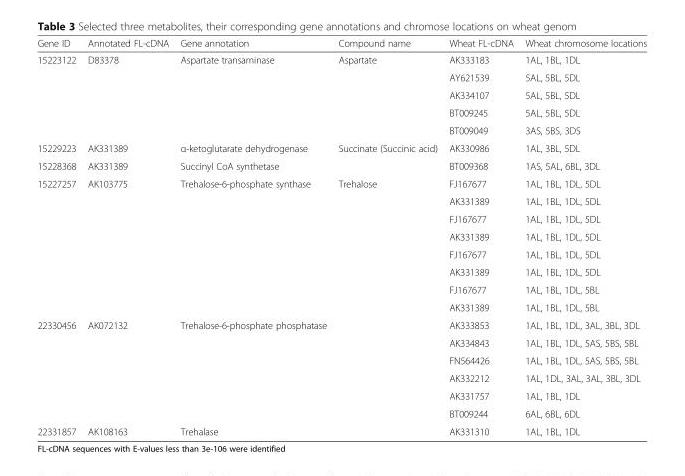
<table><thead><tr><td>Gene ID</td><td>Annotated FL-cDNA</td><td>Gene annotation</td><td>Compound name</td><td>Wheat FL-cDNA</td><td>Wheat chromosome locations</td></tr></thead><tbody><tr><td rowspan="5">15223122</td><td rowspan="5">D83378</td><td rowspan="5">Aspartate transaminase</td><td rowspan="5">Aspartate</td><td>AK333183</td><td>1AL, 1BL, 1DL</td></tr><tr><td>AY621539</td><td>5AL, 5BL, 5DL</td></tr><tr><td>AK334107</td><td>5AL, 5BL, 5DL</td></tr><tr><td>BT009245</td><td>5AL, 5BL, 5DL</td></tr><tr><td>BT009049</td><td>3AS, 5BS, 3DS</td></tr><tr><td>15229223</td><td>AK331389</td><td>α-ketoglutarate dehydrogenase</td><td rowspan="2">Succinate (Succinic acid)</td><td>AK330986</td><td>1AL, 3BL, 5DL</td></tr><tr><td>15228368</td><td>AK331389</td><td>Succinyl CoA synthetase</td><td>BT009368</td><td>1AS, 5AL, 6BL, 3DL</td></tr><tr><td rowspan="8">15227257</td><td rowspan="8">AK103775</td><td rowspan="8">Trehalose-6-phosphate synthase</td><td rowspan="15">Trehalose</td><td>FJ167677</td><td>1AL, 1BL, 1DL, 5DL</td></tr><tr><td>AK331389</td><td>1AL, 1BL, 1DL, 5DL</td></tr><tr><td>FJ167677</td><td>1AL, 1BL, 1DL, 5DL</td></tr><tr><td>AK331389</td><td>1AL, 1BL, 1DL, 5DL</td></tr><tr><td>FJ167677</td><td>1AL, 1BL, 1DL, 5DL</td></tr><tr><td>AK331389</td><td>1AL, 1BL, 1DL, 5DL</td></tr><tr><td>FJ167677</td><td>1AL, 1BL, 1DL, 5BL</td></tr><tr><td>AK331389</td><td>1AL, 1BL, 1DL, 5BL</td></tr><tr><td rowspan="6">22330456</td><td rowspan="6">AK072132</td><td rowspan="6">Trehalose-6-phosphate phosphatase</td><td>AK333853</td><td>1AL, 1BL, 1DL, 3AL, 3BL, 3DL</td></tr><tr><td>AK334843</td><td>1AL, 1BL, 1DL, 5AS, 5BS, 5BL</td></tr><tr><td>FN564426</td><td>1AL, 1BL, 1DL, 5AS, 5BS, 5BL</td></tr><tr><td>AK332212</td><td>1AL, 1DL, 3AL, 3AL, 3BL, 3DL</td></tr><tr><td>AK331757</td><td>1AL, 1BL, 1DL</td></tr><tr><td>BT009244</td><td>6AL, 6BL, 6DL</td></tr><tr><td>22331857</td><td>AK108163</td><td>Trehalase</td><td>AK331310</td><td>1AL, 1BL, 1DL</td></tr></tbody></table>